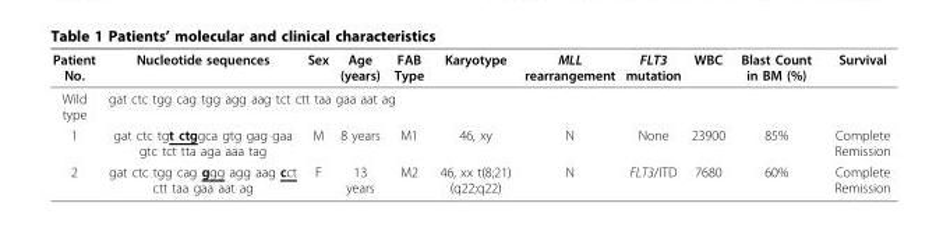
<table><thead><tr><td>Patient No.</td><td>Nucleotide sequences</td><td>Sex</td><td>Age (years)</td><td>FAB Type</td><td>Karyotype</td><td>MLL rearrangement</td><td>FLT3 mutation</td><td>WBC</td><td>Blast Count in BM (%)</td><td>Survival</td></tr></thead><tbody><tr><td>Wild type</td><td colspan="10">gat ctc tgg cag tgg agg aag tct ctt taa gaa aat ag</td></tr><tr><td>1</td><td>gat ctc tgt ctggca gtg gag gaa gtc tct tta aga aaa tag</td><td>M</td><td>8 years</td><td>M1</td><td>46, xy</td><td>N</td><td>None</td><td>23900</td><td>85%</td><td>Complete Remission</td></tr><tr><td>2</td><td>gat ctc tgg cag ggg agg aag cct ctt taa gaa aat ag</td><td>F</td><td>13 years</td><td>M2</td><td>46, xx t(8;21) (q22;q22)</td><td>N</td><td>FLT3/ITD</td><td>7680</td><td>60%</td><td>Complete Remission</td></tr></tbody></table>